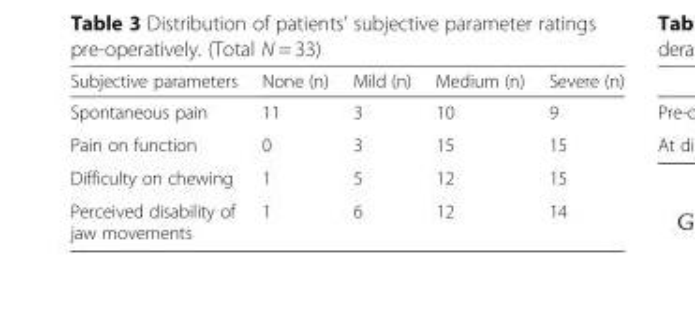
<table><thead><tr><td>Subjective parameters</td><td>None (n)</td><td>Mild (n)</td><td>Medium (n)</td><td>Severe (n)</td></tr></thead><tbody><tr><td>Spontaneous pain</td><td>11</td><td>3</td><td>10</td><td>9</td></tr><tr><td>Pain on function</td><td>0</td><td>3</td><td>15</td><td>15</td></tr><tr><td>Difficulty on chewing</td><td>1</td><td>5</td><td>12</td><td>15</td></tr><tr><td>Perceived disability of jaw movements</td><td>1</td><td>6</td><td>12</td><td>14</td></tr></tbody></table>